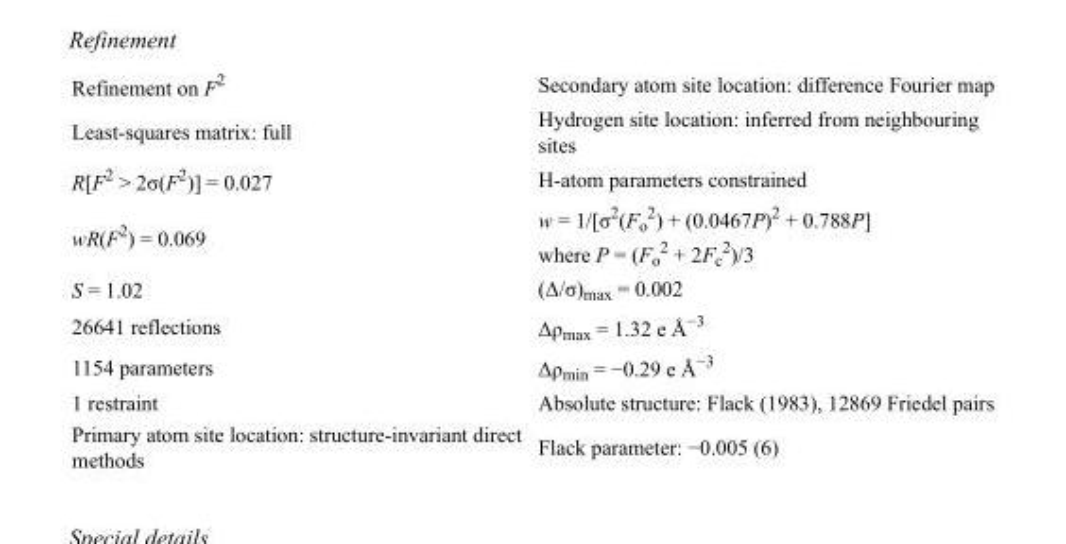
<table><tbody><tr><td>Refinement on F<sup>2</sup></td><td>Secondary atom site location: difference Fourier map</td></tr><tr><td>Least-squares matrix: full</td><td>Hydrogen site location: inferred from neighbouring sites</td></tr><tr><td>R[F<sup>2</sup> &gt; 2σ(F<sup>2</sup>)] = 0.027</td><td>H-atom parameters constrained</td></tr><tr><td>wR(F<sup>2</sup>) = 0.069</td><td>w = 1/[σ<sup>2</sup>(F<sub>o</sub> <sup>2</sup>) + (0.0467P)<sup>2</sup> + 0.788P] where P = (F<sub>o</sub> <sup>2</sup> + 2F<sub>c</sub> <sup>2</sup>)/3</td></tr><tr><td>S = 1.02</td><td>(Δ/σ)<sub>max</sub> = 0.002</td></tr><tr><td>26641 reflections</td><td>Δρ<sub>max</sub> = 1.32 e Å<sup>−3</sup></td></tr><tr><td>1154 parameters</td><td>Δρ<sub>min</sub> = −0.29 e Å<sup>−3</sup></td></tr><tr><td>1 restraint</td><td>Absolute structure: Flack (1983), 12869 Friedel pairs</td></tr><tr><td>Primary atom site location: structure-invariant direct methods</td><td>Flack parameter: −0.005 (6)</td></tr></tbody></table>